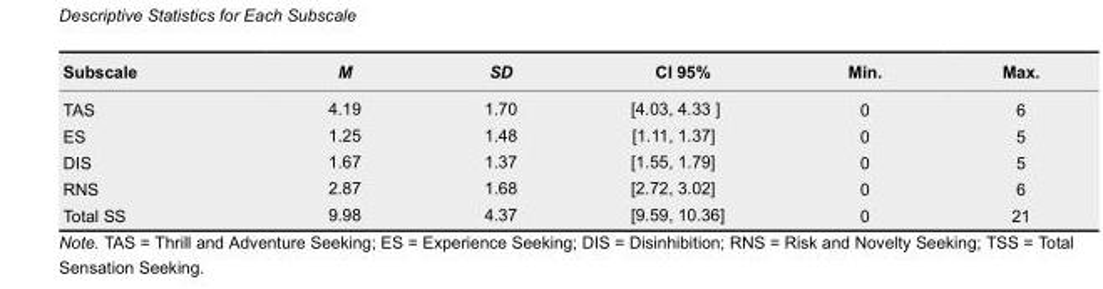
<table><thead><tr><td>Subscale</td><td>M</td><td>SD</td><td>CI 95%</td><td>Min.</td><td>Max.</td></tr></thead><tbody><tr><td>TAS</td><td>4.19</td><td>1.70</td><td>[4.03, 4.33 ]</td><td>0</td><td>6</td></tr><tr><td>ES</td><td>1.25</td><td>1.48</td><td>[1.11, 1.37]</td><td>0</td><td>5</td></tr><tr><td>DIS</td><td>1.67</td><td>1.37</td><td>[1.55, 1.79]</td><td>0</td><td>5</td></tr><tr><td>RNS</td><td>2.87</td><td>1.68</td><td>[2.72, 3.02]</td><td>0</td><td>6</td></tr><tr><td>Total SS</td><td>9.98</td><td>4.37</td><td>[9.59, 10.36]</td><td>0</td><td>21</td></tr></tbody></table>